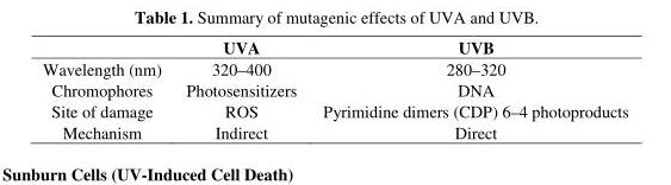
<table><thead><tr><td></td><td>UVA</td><td>UVB</td></tr></thead><tbody><tr><td>Wavelength (nm)</td><td>320–400</td><td>280–320</td></tr><tr><td>Chromophores</td><td>Photosensitizers</td><td>DNA</td></tr><tr><td>Site of damage</td><td>ROS</td><td>Pyrimidine dimers (CDP) 6–4 photoproducts</td></tr><tr><td>Mechanism</td><td>Indirect</td><td>Direct</td></tr></tbody></table>